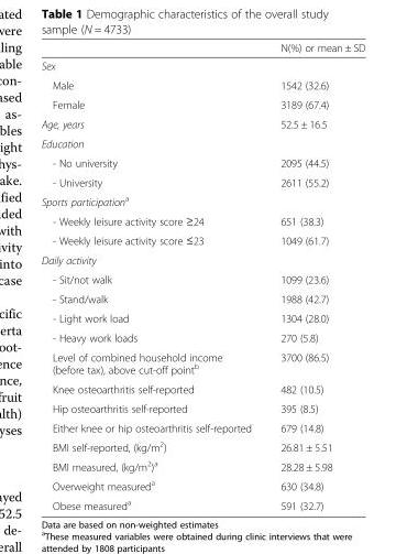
<table><thead><tr><td></td><td>N(%) or mean ± SD</td></tr></thead><tbody><tr><td colspan="2">Sex</td></tr><tr><td>Male</td><td>1542 (32.6)</td></tr><tr><td>Female</td><td>3189 (67.4)</td></tr><tr><td>Age, years</td><td>52.5 ± 16.5</td></tr><tr><td colspan="2">Education</td></tr><tr><td>- No university</td><td>2095 (44.5)</td></tr><tr><td>- University</td><td>2611 (55.2)</td></tr><tr><td colspan="2">Sports participation<sup>a</sup></td></tr><tr><td>- Weekly leisure activity score ≥24</td><td>651 (38.3)</td></tr><tr><td>- Weekly leisure activity score ≤23</td><td>1049 (61.7)</td></tr><tr><td colspan="2">Daily activity</td></tr><tr><td>- Sit/not walk</td><td>1099 (23.6)</td></tr><tr><td>- Stand/walk</td><td>1988 (42.7)</td></tr><tr><td>- Light work load</td><td>1304 (28.0)</td></tr><tr><td>- Heavy work loads</td><td>270 (5.8)</td></tr><tr><td>Level of combined household income (before tax), above cut-off point<sup>b</sup></td><td>3700 (86.5)</td></tr><tr><td>Knee osteoarthritis self-reported</td><td>482 (10.5)</td></tr><tr><td>Hip osteoarthritis self-reported</td><td>395 (8.5)</td></tr><tr><td>Either knee or hip osteoarthritis self-reported</td><td>679 (14.8)</td></tr><tr><td>BMI self-reported, (kg/m<sup>2</sup>)</td><td>26.81 ± 5.51</td></tr><tr><td>BMI measured, (kg/m<sup>2</sup>)<sup>a</sup></td><td>28.28 ± 5.98</td></tr><tr><td>Overweight measured<sup>a</sup></td><td>630 (34.8)</td></tr><tr><td>Obese measured<sup>a</sup></td><td>591 (32.7)</td></tr></tbody></table>